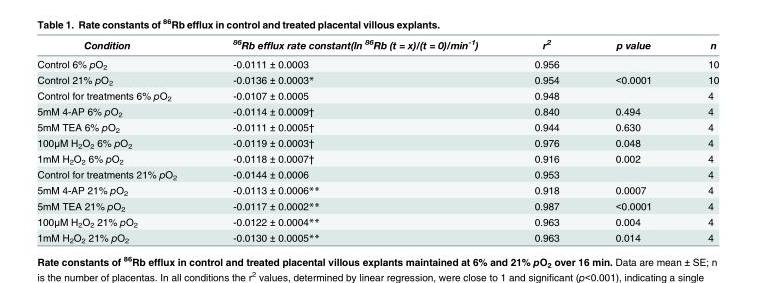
<table><thead><tr><td>Condition</td><td><sup>86</sup>Rb efflux rate constant(ln <sup>86</sup>Rb (t = x)/(t = 0)/min<sup>-1</sup>)</td><td>r<sup>2</sup></td><td>p value</td><td>n</td></tr></thead><tbody><tr><td>Control 6% pO<sub>2</sub></td><td>-0.0111 ± 0.0003</td><td>0.956</td><td></td><td>10</td></tr><tr><td>Control 21% pO<sub>2</sub></td><td>-0.0136 ± 0.0003*</td><td>0.954</td><td>&lt;0.0001</td><td>10</td></tr><tr><td>Control for treatments 6% pO<sub>2</sub></td><td>-0.0107 ± 0.0005</td><td>0.948</td><td></td><td>4</td></tr><tr><td>5mM 4-AP 6% pO<sub>2</sub></td><td>-0.0114 ± 0.0009†</td><td>0.840</td><td>0.494</td><td>4</td></tr><tr><td>5mM TEA 6% pO<sub>2</sub></td><td>-0.0111 ± 0.0005†</td><td>0.944</td><td>0.630</td><td>4</td></tr><tr><td>100μM H<sub>2</sub>O<sub>2</sub> 6% pO<sub>2</sub></td><td>-0.0119 ± 0.0003†</td><td>0.976</td><td>0.048</td><td>4</td></tr><tr><td>1mM H<sub>2</sub>O<sub>2</sub> 6% pO<sub>2</sub></td><td>-0.0118 ± 0.0007†</td><td>0.916</td><td>0.002</td><td>4</td></tr><tr><td>Control for treatments 21% pO<sub>2</sub></td><td>-0.0144 ± 0.0006</td><td>0.953</td><td></td><td>4</td></tr><tr><td>5mM 4-AP 21% pO<sub>2</sub></td><td>-0.0113 ± 0.0006**</td><td>0.918</td><td>0.0007</td><td>4</td></tr><tr><td>5mM TEA 21% pO<sub>2</sub></td><td>-0.0117 ± 0.0002**</td><td>0.987</td><td>&lt;0.0001</td><td>4</td></tr><tr><td>100μM H<sub>2</sub>O<sub>2</sub> 21% pO<sub>2</sub></td><td>-0.0122 ± 0.0004**</td><td>0.963</td><td>0.004</td><td>4</td></tr><tr><td>1mM H<sub>2</sub>O<sub>2</sub> 21% pO<sub>2</sub></td><td>-0.0130 ± 0.0005**</td><td>0.963</td><td>0.014</td><td>4</td></tr></tbody></table>